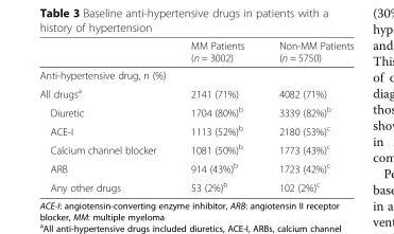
<table><thead><tr><td></td><td>MM Patients (n = 3002)</td><td>Non-MM Patients (n = 5750)</td></tr></thead><tbody><tr><td colspan="3">Anti-hypertensive drug, n (%)</td></tr><tr><td>All drugs<sup>a</sup></td><td>2141 (71%)</td><td>4082 (71%)</td></tr><tr><td>Diuretic</td><td>1704 (80%)<sup>b</sup></td><td>3339 (82%)<sup>b</sup></td></tr><tr><td>ACE-I</td><td>1113 (52%)<sup>b</sup></td><td>2180 (53%)<sup>c</sup></td></tr><tr><td>Calcium channel blocker</td><td>1081 (50%)<sup>b</sup></td><td>1773 (43%)<sup>c</sup></td></tr><tr><td>ARB</td><td>914 (43%)<sup>b</sup></td><td>1723 (42%)<sup>c</sup></td></tr><tr><td>Any other drugs</td><td>53 (2%)<sup>b</sup></td><td>102 (2%)<sup>c</sup></td></tr></tbody></table>